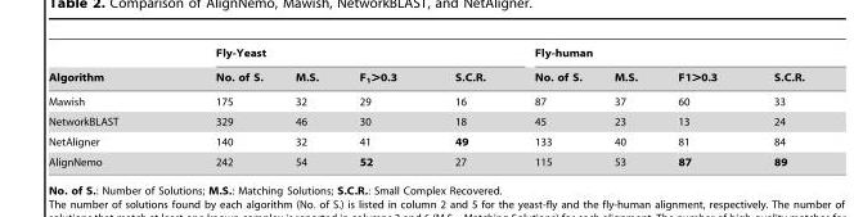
<table><thead><tr><td rowspan="2">Algorithm</td><td colspan="4">Fly-Yeast</td><td colspan="4">Fly-human</td></tr><tr><td>No. of S.</td><td>M.S.</td><td>F<sub>1</sub>&gt;0.3</td><td>S.C.R.</td><td>No. of S.</td><td>M.S.</td><td>F1&gt;0.3</td><td>S.C.R.</td></tr></thead><tbody><tr><td>Mawish</td><td>175</td><td>32</td><td>29</td><td>16</td><td>87</td><td>37</td><td>60</td><td>33</td></tr><tr><td>NetworkBLAST</td><td>329</td><td>46</td><td>30</td><td>18</td><td>45</td><td>23</td><td>13</td><td>24</td></tr><tr><td>NetAligner</td><td>140</td><td>32</td><td>41</td><td>49</td><td>133</td><td>40</td><td>81</td><td>84</td></tr><tr><td>AlignNemo</td><td>242</td><td>54</td><td>52</td><td>27</td><td>115</td><td>53</td><td>87</td><td>89</td></tr></tbody></table>